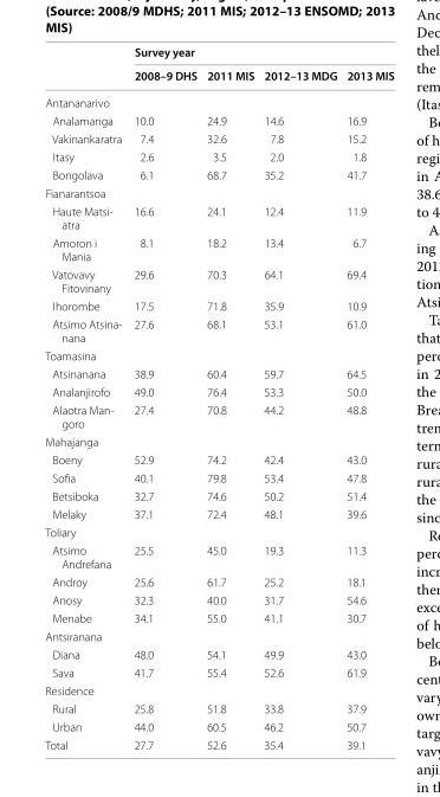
<table><thead><tr><td rowspan="2"></td><td colspan="4">Survey year</td></tr><tr><td>2008–9 DHS</td><td>2011 MIS</td><td>2012–13 MDG</td><td>2013 MIS</td></tr></thead><tbody><tr><td colspan="5">Antananarivo</td></tr><tr><td>Analamanga</td><td>10.0</td><td>24.9</td><td>14.6</td><td>16.9</td></tr><tr><td>Vakinankaratra</td><td>7.4</td><td>32.6</td><td>7.8</td><td>15.2</td></tr><tr><td>Itasy</td><td>2.6</td><td>3.5</td><td>2.0</td><td>1.8</td></tr><tr><td>Bongolava</td><td>6.1</td><td>68.7</td><td>35.2</td><td>41.7</td></tr><tr><td colspan="5">Fianarantsoa</td></tr><tr><td>Haute Matsi- atra</td><td>16.6</td><td>24.1</td><td>12.4</td><td>11.9</td></tr><tr><td>Amoron i Mania</td><td>8.1</td><td>18.2</td><td>13.4</td><td>6.7</td></tr><tr><td>Vatovavy Fitovinany</td><td>29.6</td><td>70.3</td><td>64.1</td><td>69.4</td></tr><tr><td>Ihorombe</td><td>17.5</td><td>71.8</td><td>35.9</td><td>10.9</td></tr><tr><td>Atsimo Atsina- nana</td><td>27.6</td><td>68.1</td><td>53.1</td><td>61.0</td></tr><tr><td colspan="5">Toamasina</td></tr><tr><td>Atsinanana</td><td>38.9</td><td>60.4</td><td>59.7</td><td>64.5</td></tr><tr><td>Analanjirofo</td><td>49.0</td><td>76.4</td><td>53.3</td><td>50.0</td></tr><tr><td>Alaotra Man- goro</td><td>27.4</td><td>70.8</td><td>44.2</td><td>48.8</td></tr><tr><td colspan="5">Mahajanga</td></tr><tr><td>Boeny</td><td>52.9</td><td>74.2</td><td>42.4</td><td>43.0</td></tr><tr><td>Sofia</td><td>40.1</td><td>79.8</td><td>53.4</td><td>47.8</td></tr><tr><td>Betsiboka</td><td>32.7</td><td>74.6</td><td>50.2</td><td>51.4</td></tr><tr><td>Melaky</td><td>37.1</td><td>72.4</td><td>48.1</td><td>39.6</td></tr><tr><td colspan="5">Toliary</td></tr><tr><td>Atsimo Andrefana</td><td>25.5</td><td>45.0</td><td>19.3</td><td>11.3</td></tr><tr><td>Androy</td><td>25.6</td><td>61.7</td><td>25.2</td><td>18.1</td></tr><tr><td>Anosy</td><td>32.3</td><td>40.0</td><td>31.7</td><td>54.6</td></tr><tr><td>Menabe</td><td>34.1</td><td>55.0</td><td>41.1</td><td>30.7</td></tr><tr><td colspan="5">Antsiranana</td></tr><tr><td>Diana</td><td>48.0</td><td>54.1</td><td>49.9</td><td>43.0</td></tr><tr><td>Sava</td><td>41.7</td><td>55.4</td><td>52.6</td><td>61.9</td></tr><tr><td colspan="5">Residence</td></tr><tr><td>Rural</td><td>25.8</td><td>51.8</td><td>33.8</td><td>37.9</td></tr><tr><td>Urban</td><td>44.0</td><td>60.5</td><td>46.2</td><td>50.7</td></tr><tr><td>Total</td><td>27.7</td><td>52.6</td><td>35.4</td><td>39.1</td></tr></tbody></table>